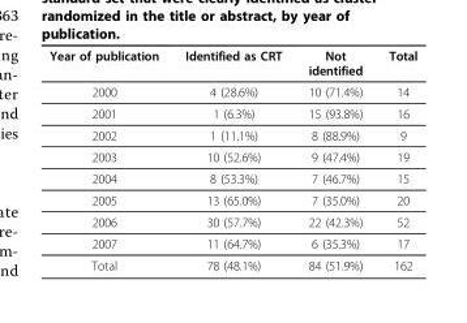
<table><thead><tr><td>Year of publication</td><td>Identified as CRT</td><td>Not identified</td><td>Total</td></tr></thead><tbody><tr><td>2000</td><td>4 (28.6%)</td><td>10 (71.4%)</td><td>14</td></tr><tr><td>2001</td><td>1 (6.3%)</td><td>15 (93.8%)</td><td>16</td></tr><tr><td>2002</td><td>1 (11.1%)</td><td>8 (88.9%)</td><td>9</td></tr><tr><td>2003</td><td>10 (52.6%)</td><td>9 (47.4%)</td><td>19</td></tr><tr><td>2004</td><td>8 (53.3%)</td><td>7 (46.7%)</td><td>15</td></tr><tr><td>2005</td><td>13 (65.0%)</td><td>7 (35.0%)</td><td>20</td></tr><tr><td>2006</td><td>30 (57.7%)</td><td>22 (42.3%)</td><td>52</td></tr><tr><td>2007</td><td>11 (64.7%)</td><td>6 (35.3%)</td><td>17</td></tr><tr><td>Total</td><td>78 (48.1%)</td><td>84 (51.9%)</td><td>162</td></tr></tbody></table>